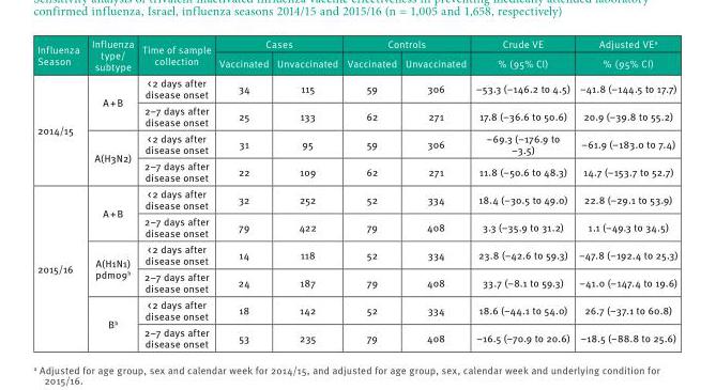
<table><thead><tr><td rowspan="2">Influenza Season</td><td rowspan="2">Influenza type/ subtype</td><td rowspan="2">Time of sample collection</td><td colspan="2">Cases</td><td colspan="2">Controls</td><td rowspan="2">Crude VE % (95% CI)</td><td rowspan="2">Adjusted VE<sup>a</sup> % (95% CI)</td></tr><tr><td>Vaccinated</td><td>Unvaccinated</td><td>Vaccinated</td><td>Unvaccinated</td></tr></thead><tbody><tr><td rowspan="4">2014/15</td><td rowspan="2">A + B</td><td>&lt; 2 days after disease onset</td><td>34</td><td>115</td><td>59</td><td>306</td><td>−53.3 (−146.2 to 4.5)</td><td>−41.8 (−144.5 to 17.7)</td></tr><tr><td>2–7 days after disease onset</td><td>25</td><td>133</td><td>62</td><td>271</td><td>17.8 (−36.6 to 50.6)</td><td>20.9 (−39.8 to 55.2)</td></tr><tr><td rowspan="2">A(H3N2)</td><td>&lt; 2 days after disease onset</td><td>31</td><td>95</td><td>59</td><td>306</td><td>−69.3 (−176.9 to −3.5)</td><td>−61.9 (−183.0 to 7.4)</td></tr><tr><td>2–7 days after disease onset</td><td>22</td><td>109</td><td>62</td><td>271</td><td>11.8 (−50.6 to 48.3)</td><td>14.7 (−153.7 to 52.7)</td></tr><tr><td rowspan="6">2015/16</td><td rowspan="2">A + B</td><td>&lt; 2 days after disease onset</td><td>32</td><td>252</td><td>52</td><td>334</td><td>18.4 (−30.5 to 49.0)</td><td>22.8 (−29.1 to 53.9)</td></tr><tr><td>2–7 days after disease onset</td><td>79</td><td>422</td><td>79</td><td>408</td><td>3.3 (−35.9 to 31.2)</td><td>1.1 (−49.3 to 34.5)</td></tr><tr><td rowspan="2">A(H1N1) pdm09<sup>b</sup></td><td>&lt; 2 days after disease onset</td><td>14</td><td>118</td><td>52</td><td>334</td><td>23.8 (−42.6 to 59.3)</td><td>−47.8 (−192.4 to 25.3)</td></tr><tr><td>2–7 days after disease onset</td><td>24</td><td>187</td><td>79</td><td>408</td><td>33.7 (−8.1 to 59.3)</td><td>−41.0 (−147.4 to 19.6)</td></tr><tr><td rowspan="2">B<sup>b</sup></td><td>&lt; 2 days after disease onset</td><td>18</td><td>142</td><td>52</td><td>334</td><td>18.6 (−44.1 to 54.0)</td><td>26.7 (−37.1 to 60.8)</td></tr><tr><td>2–7 days after disease onset</td><td>53</td><td>235</td><td>79</td><td>408</td><td>−16.5 (−70.9 to 20.6)</td><td>−18.5 (−88.8 to 25.6)</td></tr></tbody></table>